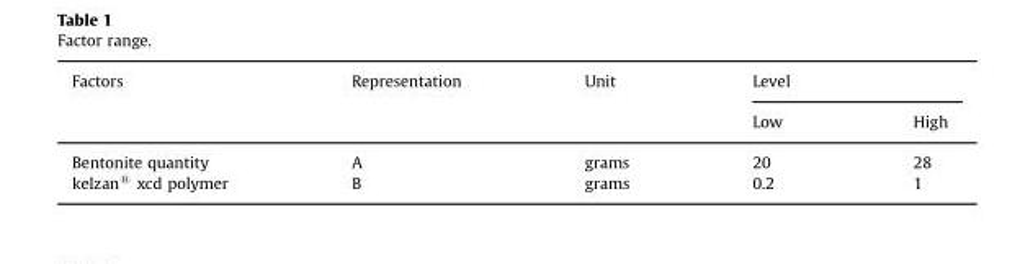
<table><thead><tr><td rowspan="2">Factors</td><td rowspan="2">Representation</td><td rowspan="2">Unit</td><td rowspan="2">Level Low</td><td rowspan="2">High</td></tr><tr></tr></thead><tbody><tr><td>Bentonite quantity</td><td>A</td><td>grams</td><td>20</td><td>28</td></tr><tr><td>kelzan® xcd polymer</td><td>B</td><td>grams</td><td>0.2</td><td>1</td></tr></tbody></table>